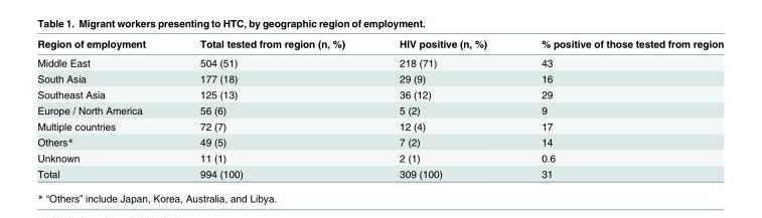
<table><thead><tr><td>Region of employment</td><td>Total tested from region (n, %)</td><td>HIV positive (n, %)</td><td>% positive of those tested from region</td></tr></thead><tbody><tr><td>Middle East</td><td>504 (51)</td><td>218 (71)</td><td>43</td></tr><tr><td>South Asia</td><td>177 (18)</td><td>29 (9)</td><td>16</td></tr><tr><td>Southeast Asia</td><td>125 (13)</td><td>36 (12)</td><td>29</td></tr><tr><td>Europe / North America</td><td>56 (6)</td><td>5 (2)</td><td>9</td></tr><tr><td>Multiple countries</td><td>72 (7)</td><td>12 (4)</td><td>17</td></tr><tr><td>Others*</td><td>49 (5)</td><td>7 (2)</td><td>14</td></tr><tr><td>Unknown</td><td>11 (1)</td><td>2 (1)</td><td>0.6</td></tr><tr><td>Total</td><td>994 (100)</td><td>309 (100)</td><td>31</td></tr></tbody></table>